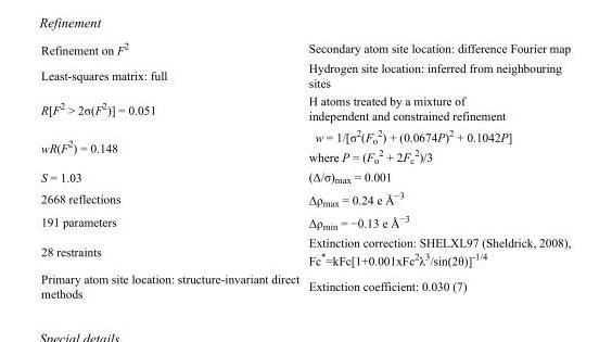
<table><tbody><tr><td>Refinement on F<sup>2</sup></td><td>Secondary atom site location: difference Fourier map</td></tr><tr><td>Least-squares matrix: full</td><td>Hydrogen site location: inferred from neighbouring sites</td></tr><tr><td>R[F<sup>2</sup> &gt; 2σ(F<sup>2</sup>)] = 0.051</td><td>H atoms treated by a mixture of independent and constrained refinement</td></tr><tr><td>wR(F<sup>2</sup>) = 0.148</td><td>w = 1/[σ<sup>2</sup>(F<sub>o</sub> <sup>2</sup>) + (0.0674P)<sup>2</sup> + 0.1042P] where P = (F<sub>o</sub> <sup>2</sup> + 2F<sub>c</sub> <sup>2</sup>)/3</td></tr><tr><td>S = 1.03</td><td>(Δ/σ)<sub>max</sub> = 0.001</td></tr><tr><td>2668 reflections</td><td>Δρ<sub>max</sub> = 0.24 e Å<sup>−3</sup></td></tr><tr><td>191 parameters</td><td>Δρ<sub>min</sub> = −0.13 e Å<sup>−3</sup></td></tr><tr><td>28 restraints</td><td>Extinction correction: SHELXL97 (Sheldrick, 2008), Fc*=kFc[1+0.001xFc<sup>2</sup>λ<sup>3</sup>/sin(2θ)]<sup>-1/4</sup></td></tr><tr><td>Primary atom site location: structure-invariant direct methods</td><td>Extinction coefficient: 0.030 (7)</td></tr></tbody></table>